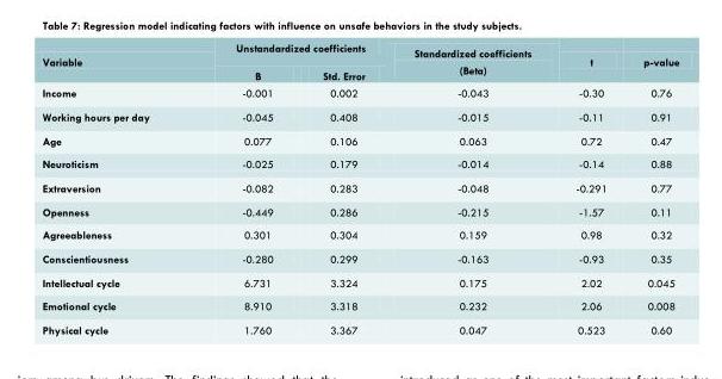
<table><thead><tr><td rowspan="2">Variable</td><td colspan="2">Unstandardized coefficients</td><td rowspan="2">Standardized coefficients (Beta)</td><td rowspan="2">t</td><td rowspan="2">p-value</td></tr><tr><td>B</td><td>Std. Error</td></tr></thead><tbody><tr><td>Income</td><td>-0.001</td><td>0.002</td><td>-0.043</td><td>-0.30</td><td>0.76</td></tr><tr><td>Working hours per day</td><td>-0.045</td><td>0.408</td><td>-0.015</td><td>-0.11</td><td>0.91</td></tr><tr><td>Age</td><td>0.077</td><td>0.106</td><td>0.063</td><td>0.72</td><td>0.47</td></tr><tr><td>Neuroticism</td><td>-0.025</td><td>0.179</td><td>-0.014</td><td>-0.14</td><td>0.88</td></tr><tr><td>Extraversion</td><td>-0.082</td><td>0.283</td><td>-0.048</td><td>-0.291</td><td>0.77</td></tr><tr><td>Openness</td><td>-0.449</td><td>0.286</td><td>-0.215</td><td>-1.57</td><td>0.11</td></tr><tr><td>Agreeableness</td><td>0.301</td><td>0.304</td><td>0.159</td><td>0.98</td><td>0.32</td></tr><tr><td>Conscientiousness</td><td>-0.280</td><td>0.299</td><td>-0.163</td><td>-0.93</td><td>0.35</td></tr><tr><td>Intellectual cycle</td><td>6.731</td><td>3.324</td><td>0.175</td><td>2.02</td><td>0.045</td></tr><tr><td>Emotional cycle</td><td>8.910</td><td>3.318</td><td>0.232</td><td>2.06</td><td>0.008</td></tr><tr><td>Physical cycle</td><td>1.760</td><td>3.367</td><td>0.047</td><td>0.523</td><td>0.60</td></tr></tbody></table>